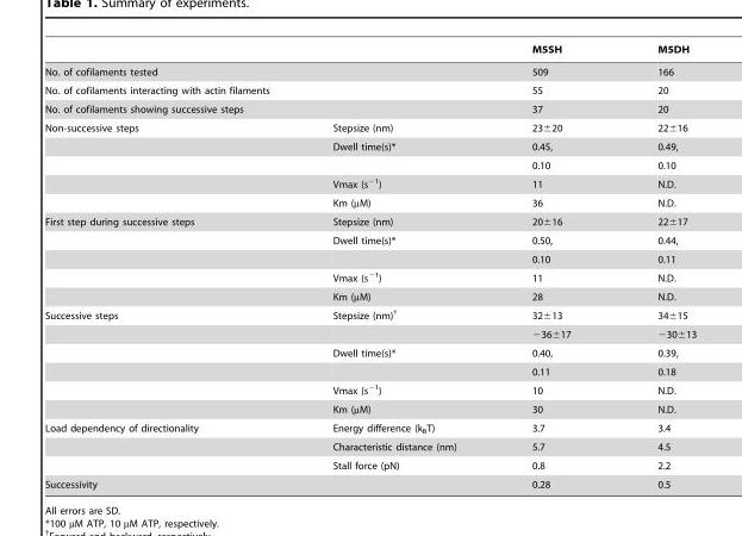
<table><thead><tr><td></td><td></td><td>M5SH</td><td>M5DH</td></tr></thead><tbody><tr><td colspan="2">No. of cofilaments tested</td><td>509</td><td>166</td></tr><tr><td colspan="2">No. of cofilaments interacting with actin filaments</td><td>55</td><td>20</td></tr><tr><td colspan="2">No. of cofilaments showing successive steps</td><td>37</td><td>20</td></tr><tr><td rowspan="5">Non-successive steps</td><td>Stepsize (nm)</td><td>23±20</td><td>22±16</td></tr><tr><td>Dwell time(s)*</td><td>0.45,</td><td>0.49,</td></tr><tr><td></td><td>0.10</td><td>0.10</td></tr><tr><td>Vmax (s<sup>−1</sup>)</td><td>11</td><td>N.D.</td></tr><tr><td>Km (µM)</td><td>36</td><td>N.D.</td></tr><tr><td rowspan="5">First step during successive steps</td><td>Stepsize (nm)</td><td>20±16</td><td>22±17</td></tr><tr><td>Dwell time(s)*</td><td>0.50,</td><td>0.44,</td></tr><tr><td></td><td>0.10</td><td>0.11</td></tr><tr><td>Vmax (s<sup>−1</sup>)</td><td>11</td><td>N.D.</td></tr><tr><td>Km (µM)</td><td>28</td><td>N.D.</td></tr><tr><td rowspan="6">Successive steps</td><td>Stepsize (nm)†</td><td>32±13</td><td>34±15</td></tr><tr><td></td><td>−36±17</td><td>−30±13</td></tr><tr><td>Dwell time(s)*</td><td>0.40,</td><td>0.39,</td></tr><tr><td></td><td>0.11</td><td>0.18</td></tr><tr><td>Vmax (s<sup>−1</sup>)</td><td>10</td><td>N.D.</td></tr><tr><td>Km (µM)</td><td>30</td><td>N.D.</td></tr><tr><td rowspan="3">Load dependency of directionality</td><td>Energy difference (k<sub>B</sub>T)</td><td>3.7</td><td>3.4</td></tr><tr><td>Characteristic distance (nm)</td><td>5.7</td><td>4.5</td></tr><tr><td>Stall force (pN)</td><td>0.8</td><td>2.2</td></tr><tr><td colspan="2">Successivity</td><td>0.28</td><td>0.5</td></tr></tbody></table>